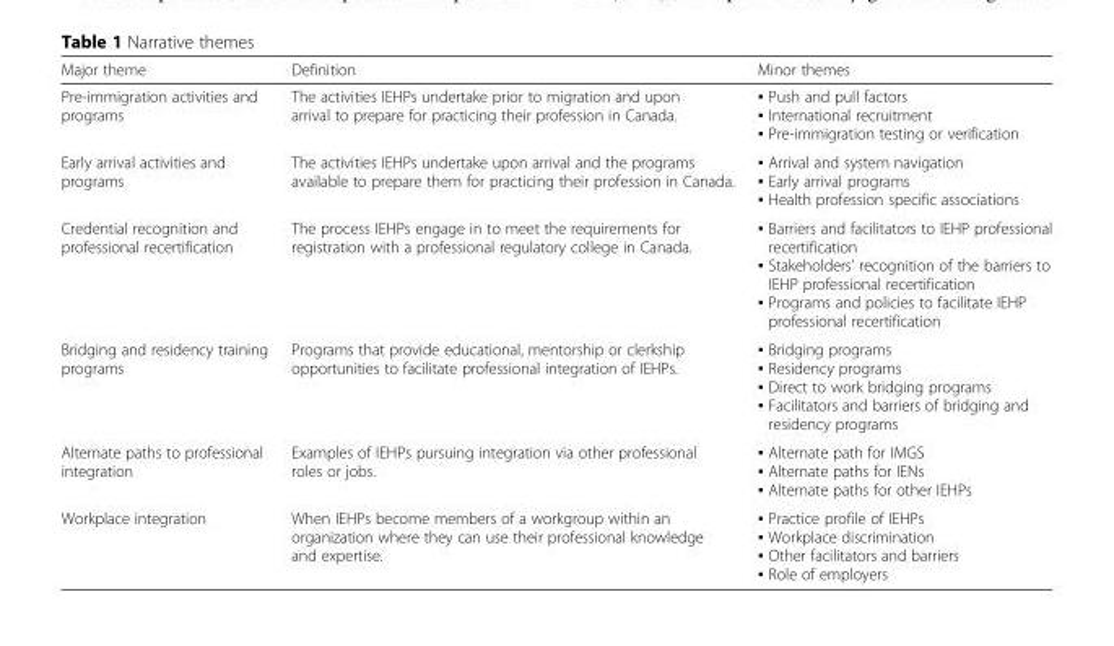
<table><thead><tr><td>Major theme</td><td>Definition</td><td>Minor themes</td></tr></thead><tbody><tr><td>Pre-immigration activities and programs</td><td>The activities IEHPs undertake prior to migration and upon arrival to prepare for practicing their profession in Canada.</td><td>▪ Push and pull factors ▪ International recruitment ▪ Pre-immigration testing or verification</td></tr><tr><td>Early arrival activities and programs</td><td>The activities IEHPs undertake upon arrival and the programs available to prepare them for practicing their profession in Canada.</td><td>▪ Arrival and system navigation ▪ Early arrival programs ▪ Health profession specific associations</td></tr><tr><td>Credential recognition and professional recertification</td><td>The process IEHPs engage in to meet the requirements for registration with a professional regulatory college in Canada.</td><td>▪ Barriers and facilitators to IEHP professional recertification ▪ Stakeholders’ recognition of the barriers to IEHP professional recertification ▪ Programs and policies to facilitate IEHP professional recertification</td></tr><tr><td>Bridging and residency training programs</td><td>Programs that provide educational, mentorship or clerkship opportunities to facilitate professional integration of IEHPs.</td><td>▪ Bridging programs ▪ Residency programs ▪ Direct to work bridging programs ▪ Facilitators and barriers of bridging and residency programs</td></tr><tr><td>Alternate paths to professional integration</td><td>Examples of IEHPs pursuing integration via other professional roles or jobs.</td><td>▪ Alternate path for IMGS ▪ Alternate paths for IENs ▪ Alternate paths for other IEHPs</td></tr><tr><td>Workplace integration</td><td>When IEHPs become members of a workgroup within an organization where they can use their professional knowledge and expertise.</td><td>▪ Practice profile of IEHPs ▪ Workplace discrimination ▪ Other facilitators and barriers ▪ Role of employers</td></tr></tbody></table>